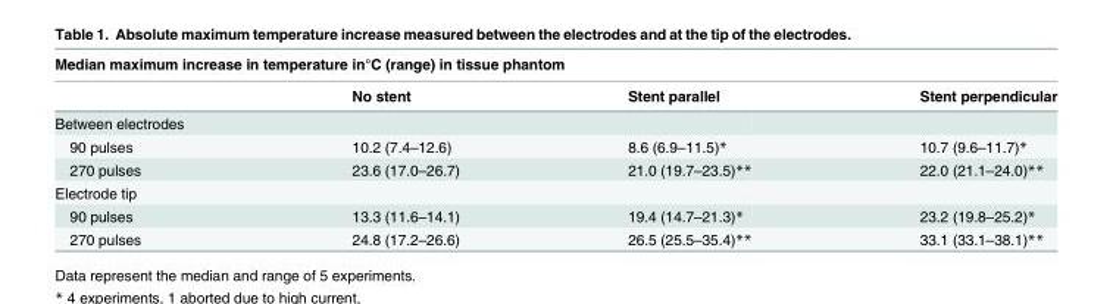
<table><thead><tr><td colspan="4">Median maximum increase in temperature in°C (range) in tissue phantom</td></tr><tr><td></td><td>No stent</td><td>Stent parallel</td><td>Stent perpendicular</td></tr></thead><tbody><tr><td colspan="4">Between electrodes</td></tr><tr><td>90 pulses</td><td>10.2 (7.4–12.6)</td><td>8.6 (6.9–11.5)*</td><td>10.7 (9.6–11.7)*</td></tr><tr><td>270 pulses</td><td>23.6 (17.0–26.7)</td><td>21.0 (19.7–23.5)**</td><td>22.0 (21.1–24.0)**</td></tr><tr><td colspan="4">Electrode tip</td></tr><tr><td>90 pulses</td><td>13.3 (11.6–14.1)</td><td>19.4 (14.7–21.3)*</td><td>23.2 (19.8–25.2)*</td></tr><tr><td>270 pulses</td><td>24.8 (17.2–26.6)</td><td>26.5 (25.5–35.4)**</td><td>33.1 (33.1–38.1)**</td></tr></tbody></table>